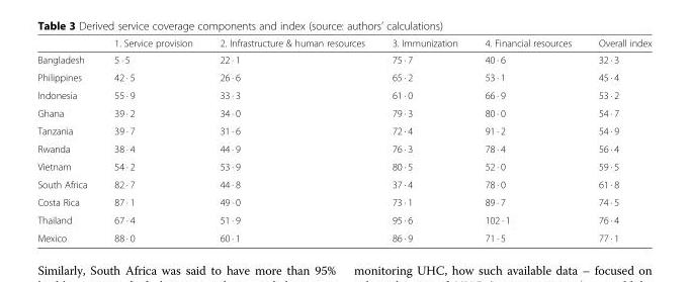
<table><thead><tr><td></td><td>1. Service provision</td><td>2. Infrastructure &amp; human resources</td><td>3. Immunization</td><td>4. Financial resources</td><td>Overall index</td></tr></thead><tbody><tr><td>Bangladesh</td><td>5 · 5</td><td>22 · 1</td><td>75 · 7</td><td>40 · 6</td><td>32 · 3</td></tr><tr><td>Philippines</td><td>42 · 5</td><td>26 · 6</td><td>65 · 2</td><td>53 · 1</td><td>45 · 4</td></tr><tr><td>Indonesia</td><td>55 · 9</td><td>33 · 3</td><td>61 · 0</td><td>66 · 9</td><td>53 · 2</td></tr><tr><td>Ghana</td><td>39 · 2</td><td>34 · 0</td><td>79 · 3</td><td>80 · 0</td><td>54 · 7</td></tr><tr><td>Tanzania</td><td>39 · 7</td><td>31 · 6</td><td>72 · 4</td><td>91 · 2</td><td>54 · 9</td></tr><tr><td>Rwanda</td><td>38 · 4</td><td>44 · 9</td><td>76 · 3</td><td>78 · 4</td><td>56 · 4</td></tr><tr><td>Vietnam</td><td>54 · 2</td><td>53 · 9</td><td>80 · 5</td><td>52 · 0</td><td>59 · 5</td></tr><tr><td>South Africa</td><td>82 · 7</td><td>44 · 8</td><td>37 · 4</td><td>78 · 0</td><td>61 · 8</td></tr><tr><td>Costa Rica</td><td>87 · 1</td><td>49 · 0</td><td>73 · 1</td><td>89 · 7</td><td>74 · 5</td></tr><tr><td>Thailand</td><td>67 · 4</td><td>51 · 9</td><td>95 · 6</td><td>102 · 1</td><td>76 · 4</td></tr><tr><td>Mexico</td><td>88 · 0</td><td>60 · 1</td><td>86 · 9</td><td>71 · 5</td><td>77 · 1</td></tr></tbody></table>